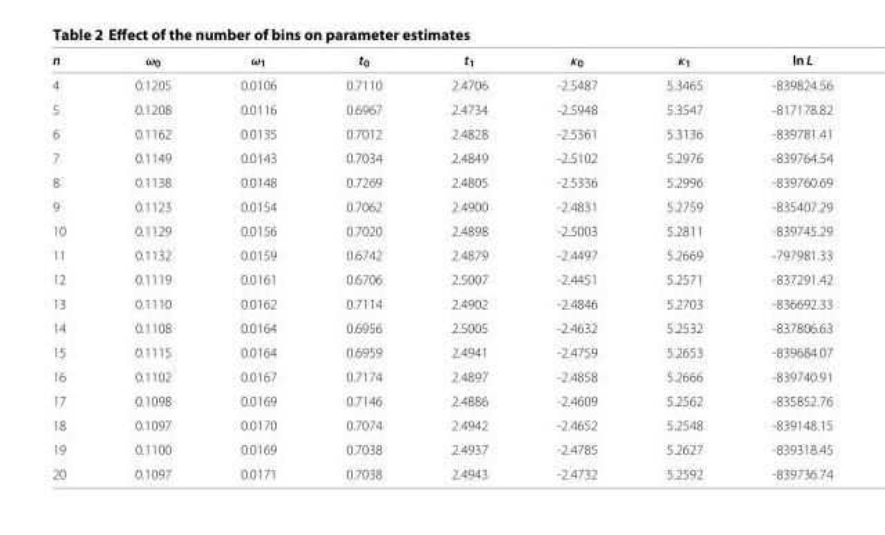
<table><thead><tr><td>n</td><td>ω<sub>0</sub></td><td>ω<sub>1</sub></td><td>t<sub>0</sub></td><td>t<sub>1</sub></td><td>κ<sub>0</sub></td><td>κ<sub>1</sub></td><td>ln L</td></tr></thead><tbody><tr><td>4</td><td>0.1205</td><td>0.0106</td><td>0.7110</td><td>2.4706</td><td>-2.5487</td><td>5.3465</td><td>-839824.56</td></tr><tr><td>5</td><td>0.1208</td><td>0.0116</td><td>0.6967</td><td>2.4734</td><td>-2.5948</td><td>5.3547</td><td>-817178.82</td></tr><tr><td>6</td><td>0.1162</td><td>0.0135</td><td>0.7012</td><td>2.4828</td><td>-2.5361</td><td>5.3136</td><td>-839781.41</td></tr><tr><td>7</td><td>0.1149</td><td>0.0143</td><td>0.7034</td><td>2.4849</td><td>-2.5102</td><td>5.2976</td><td>-839764.54</td></tr><tr><td>8</td><td>0.1138</td><td>0.0148</td><td>0.7269</td><td>2.4805</td><td>-2.5336</td><td>5.2996</td><td>-839760.69</td></tr><tr><td>9</td><td>0.1123</td><td>0.0154</td><td>0.7062</td><td>2.4900</td><td>-2.4831</td><td>5.2759</td><td>-835407.29</td></tr><tr><td>10</td><td>0.1129</td><td>0.0156</td><td>0.7020</td><td>2.4898</td><td>-2.5003</td><td>5.2811</td><td>-839745.29</td></tr><tr><td>11</td><td>0.1132</td><td>0.0159</td><td>0.6742</td><td>2.4879</td><td>-2.4497</td><td>5.2669</td><td>-797981.33</td></tr><tr><td>12</td><td>0.1119</td><td>0.0161</td><td>0.6706</td><td>2.5007</td><td>-2.4451</td><td>5.2571</td><td>-837291.42</td></tr><tr><td>13</td><td>0.1110</td><td>0.0162</td><td>0.7114</td><td>2.4902</td><td>-2.4846</td><td>5.2703</td><td>-836692.33</td></tr><tr><td>14</td><td>0.1108</td><td>0.0164</td><td>0.6956</td><td>2.5005</td><td>-2.4632</td><td>5.2532</td><td>-837806.63</td></tr><tr><td>15</td><td>0.1115</td><td>0.0164</td><td>0.6959</td><td>2.4941</td><td>-2.4759</td><td>5.2653</td><td>-839684.07</td></tr><tr><td>16</td><td>0.1102</td><td>0.0167</td><td>0.7174</td><td>2.4897</td><td>-2.4858</td><td>5.2666</td><td>-839740.91</td></tr><tr><td>17</td><td>0.1098</td><td>0.0169</td><td>0.7146</td><td>2.4886</td><td>-2.4609</td><td>5.2562</td><td>-835852.76</td></tr><tr><td>18</td><td>0.1097</td><td>0.0170</td><td>0.7074</td><td>2.4942</td><td>-2.4652</td><td>5.2548</td><td>-839148.15</td></tr><tr><td>19</td><td>0.1100</td><td>0.0169</td><td>0.7038</td><td>2.4937</td><td>-2.4785</td><td>5.2627</td><td>-839318.45</td></tr><tr><td>20</td><td>0.1097</td><td>0.0171</td><td>0.7038</td><td>2.4943</td><td>-2.4732</td><td>5.2592</td><td>-839736.74</td></tr></tbody></table>